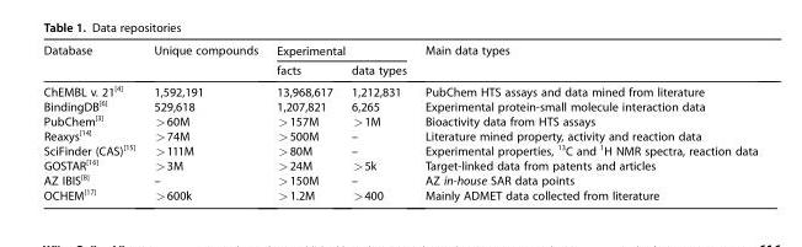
<table><thead><tr><td rowspan="2">Database</td><td rowspan="2">Unique compounds</td><td colspan="2">Experimental</td><td rowspan="2">Main data types</td></tr><tr><td>facts</td><td>data types</td></tr></thead><tbody><tr><td>ChEMBL v. 21[4]</td><td>1,592,191</td><td>13,968,617</td><td>1,212,831</td><td>PubChem HTS assays and data mined from literature</td></tr><tr><td>BindingDB[6]</td><td>529,618</td><td>1,207,821</td><td>6,265</td><td>Experimental protein-small molecule interaction data</td></tr><tr><td>PubChem[3]</td><td>&gt;60M</td><td>&gt;157M</td><td>&gt;1M</td><td>Bioactivity data from HTS assays</td></tr><tr><td>Reaxys[14]</td><td>&gt;74M</td><td>&gt;500M</td><td>–</td><td>Literature mined property, activity and reaction data</td></tr><tr><td>SciFinder (CAS)[15]</td><td>&gt;111M</td><td>&gt;80M</td><td>–</td><td>Experimental properties, <sup>13</sup>C and <sup>1</sup>H NMR spectra, reaction data</td></tr><tr><td>GOSTAR[16]</td><td>&gt;3M</td><td>&gt;24M</td><td>&gt;5k</td><td>Target-linked data from patents and articles</td></tr><tr><td>AZ IBIS[8]</td><td>–</td><td>&gt;150M</td><td>–</td><td>AZ in-house SAR data points</td></tr><tr><td>OCHEM[17]</td><td>&gt;600k</td><td>&gt;1.2M</td><td>&gt;400</td><td>Mainly ADMET data collected from literature</td></tr></tbody></table>